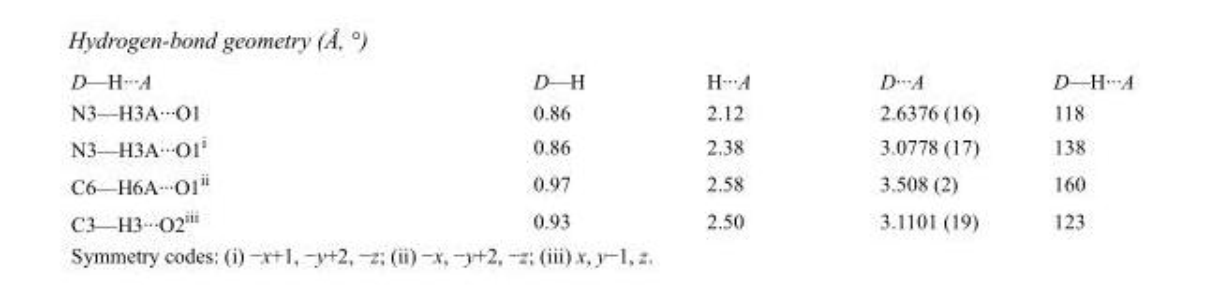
<table><tbody><tr><td>D—H···A</td><td>D—H</td><td>H···A</td><td>D···A</td><td>D—H···A</td></tr><tr><td>N3—H3A···O1</td><td>0.86</td><td>2.12</td><td>2.6376 (16)</td><td>118</td></tr><tr><td>N3—H3A···O1<sup>i</sup></td><td>0.86</td><td>2.38</td><td>3.0778 (17)</td><td>138</td></tr><tr><td>C6—H6A···O1<sup>ii</sup></td><td>0.97</td><td>2.58</td><td>3.508 (2)</td><td>160</td></tr><tr><td>C3—H3···O2<sup>iii</sup></td><td>0.93</td><td>2.50</td><td>3.1101 (19)</td><td>123</td></tr></tbody></table>